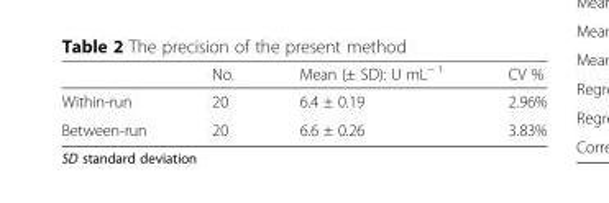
<table><thead><tr><td></td><td>No.</td><td>Mean (± SD): U mL<sup>− 1</sup></td><td>CV %</td></tr></thead><tbody><tr><td>Within-run</td><td>20</td><td>6.4 ± 0.19</td><td>2.96%</td></tr><tr><td>Between-run</td><td>20</td><td>6.6 ± 0.26</td><td>3.83%</td></tr></tbody></table>